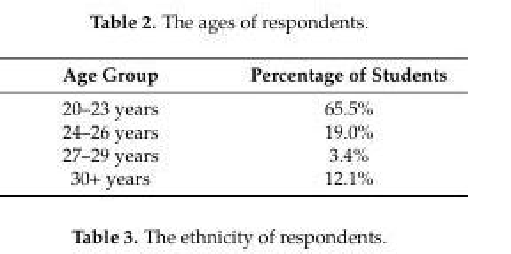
<table><thead><tr><td>Age Group</td><td>Percentage of Students</td></tr></thead><tbody><tr><td>20–23 years</td><td>65.5%</td></tr><tr><td>24–26 years</td><td>19.0%</td></tr><tr><td>27–29 years</td><td>3.4%</td></tr><tr><td>30+ years</td><td>12.1%</td></tr></tbody></table>